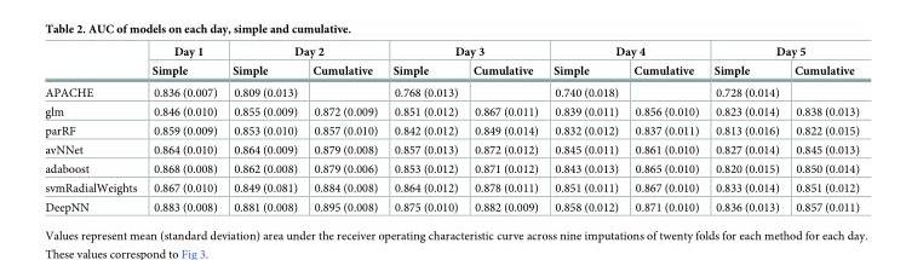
<table><thead><tr><td rowspan="2"></td><td rowspan="2">Day 1 Simple</td><td colspan="2">Day 2</td><td colspan="2">Day 3</td><td colspan="2">Day 4</td><td colspan="2">Day 5</td></tr><tr><td>Simple</td><td>Cumulative</td><td>Simple</td><td>Cumulative</td><td>Simple</td><td>Cumulative</td><td>Simple</td><td>Cumulative</td></tr></thead><tbody><tr><td>APACHE</td><td>0.836 (0.007)</td><td>0.809 (0.013)</td><td></td><td>0.768 (0.013)</td><td></td><td>0.740 (0.018)</td><td></td><td>0.728 (0.014)</td><td></td></tr><tr><td>glm</td><td>0.846 (0.010)</td><td>0.855 (0.009)</td><td>0.872 (0.009)</td><td>0.851 (0.012)</td><td>0.867 (0.011)</td><td>0.839 (0.011)</td><td>0.856 (0.010)</td><td>0.823 (0.014)</td><td>0.838 (0.013)</td></tr><tr><td>parRF</td><td>0.859 (0.009)</td><td>0.853 (0.010)</td><td>0.857 (0.010)</td><td>0.842 (0.012)</td><td>0.849 (0.014)</td><td>0.832 (0.012)</td><td>0.837 (0.011)</td><td>0.813 (0.016)</td><td>0.822 (0.015)</td></tr><tr><td>avNNet</td><td>0.864 (0.010)</td><td>0.864 (0.009)</td><td>0.879 (0.008)</td><td>0.857 (0.013)</td><td>0.872 (0.012)</td><td>0.845 (0.011)</td><td>0.861 (0.010)</td><td>0.827 (0.014)</td><td>0.845 (0.013)</td></tr><tr><td>adaboost</td><td>0.868 (0.008)</td><td>0.862 (0.008)</td><td>0.879 (0.006)</td><td>0.853 (0.012)</td><td>0.871 (0.012)</td><td>0.843 (0.013)</td><td>0.865 (0.010)</td><td>0.820 (0.015)</td><td>0.850 (0.014)</td></tr><tr><td>svmRadialWeights</td><td>0.867 (0.010)</td><td>0.849 (0.081)</td><td>0.884 (0.008)</td><td>0.864 (0.012)</td><td>0.878 (0.011)</td><td>0.851 (0.011)</td><td>0.867 (0.010)</td><td>0.833 (0.014)</td><td>0.851 (0.012)</td></tr><tr><td>DeepNN</td><td>0.883 (0.008)</td><td>0.881 (0.008)</td><td>0.895 (0.008)</td><td>0.875 (0.010)</td><td>0.882 (0.009)</td><td>0.858 (0.012)</td><td>0.871 (0.010)</td><td>0.836 (0.013)</td><td>0.857 (0.011)</td></tr></tbody></table>